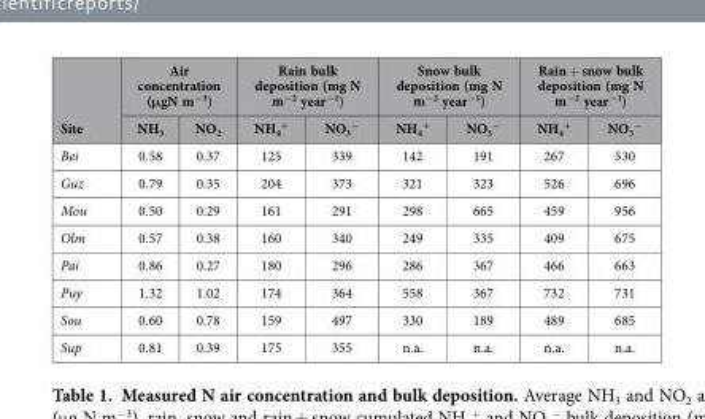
<table><thead><tr><td rowspan="2">Site</td><td colspan="2">Air concentration (μgN m<sup>−3</sup>)</td><td colspan="2">Rain bulk deposition (mg N m<sup>−2</sup> year<sup>−1</sup>)</td><td colspan="2">Snow bulk deposition (mg N m<sup>−2</sup> year<sup>−1</sup>)</td><td colspan="2">Rain + snow bulk deposition (mg N m<sup>−2</sup> year<sup>−1</sup>)</td></tr><tr><td>NH<sub>3</sub></td><td>NO<sub>2</sub></td><td>NH<sub>4</sub> <sup>+</sup></td><td>NO<sub>3</sub> <sup>−</sup></td><td>NH<sub>4</sub> <sup>+</sup></td><td>NO<sub>3</sub> <sup>−</sup></td><td>NH<sub>4</sub> <sup>+</sup></td><td>NO<sub>3</sub> <sup>−</sup></td></tr></thead><tbody><tr><td>Bei</td><td>0.58</td><td>0.37</td><td>125</td><td>339</td><td>142</td><td>191</td><td>267</td><td>530</td></tr><tr><td>Guz</td><td>0.79</td><td>0.35</td><td>204</td><td>373</td><td>321</td><td>323</td><td>526</td><td>696</td></tr><tr><td>Mou</td><td>0.50</td><td>0.29</td><td>161</td><td>291</td><td>298</td><td>665</td><td>459</td><td>956</td></tr><tr><td>Olm</td><td>0.57</td><td>0.38</td><td>160</td><td>340</td><td>249</td><td>335</td><td>409</td><td>675</td></tr><tr><td>Pai</td><td>0.86</td><td>0.27</td><td>180</td><td>296</td><td>286</td><td>367</td><td>466</td><td>663</td></tr><tr><td>Puy</td><td>1.32</td><td>1.02</td><td>174</td><td>364</td><td>558</td><td>367</td><td>732</td><td>731</td></tr><tr><td>Sou</td><td>0.60</td><td>0.78</td><td>159</td><td>497</td><td>330</td><td>189</td><td>489</td><td>685</td></tr><tr><td>Sup</td><td>0.81</td><td>0.39</td><td>175</td><td>355</td><td>n.a.</td><td>n.a.</td><td>n.a.</td><td>n.a.</td></tr></tbody></table>